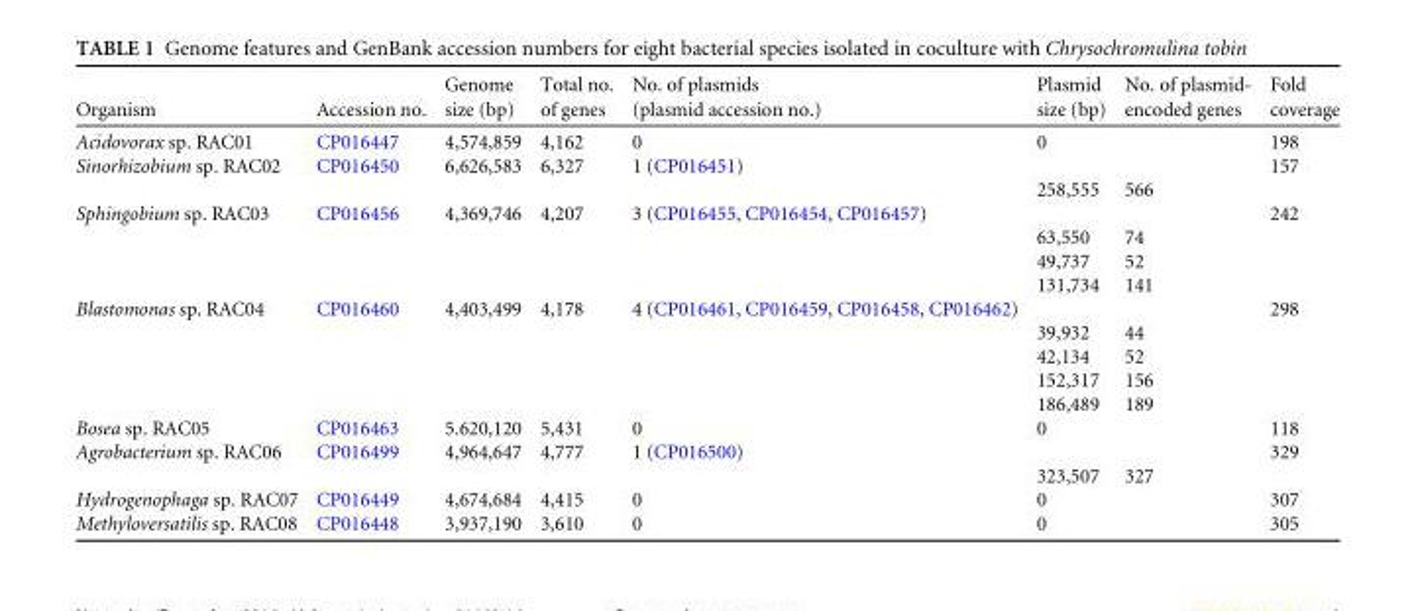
<table><thead><tr><td>Organism</td><td>Accession no.</td><td>Genome size (bp)</td><td>Total no. of genes</td><td>No. of plasmids (plasmid accession no.)</td><td>Plasmid size (bp)</td><td>No. of plasmid- encoded genes</td><td>Fold coverage</td></tr></thead><tbody><tr><td>Acidovorax sp. RAC01</td><td>CP016447</td><td>4,574,859</td><td>4,162</td><td>0</td><td>0</td><td></td><td>198</td></tr><tr><td rowspan="2">Sinorhizobium sp. RAC02</td><td>CP016450</td><td>6,626,583</td><td>6,327</td><td>1 (CP016451)</td><td></td><td></td><td>157</td></tr><tr><td></td><td></td><td></td><td></td><td>258,555</td><td>566</td><td></td></tr><tr><td rowspan="4">Sphingobium sp. RAC03</td><td>CP016456</td><td>4,369,746</td><td>4,207</td><td>3 (CP016455, CP016454, CP016457)</td><td></td><td></td><td>242</td></tr><tr><td></td><td></td><td></td><td></td><td>63,550</td><td>74</td><td></td></tr><tr><td></td><td></td><td></td><td></td><td>49,737</td><td>52</td><td></td></tr><tr><td></td><td></td><td></td><td></td><td>131,734</td><td>141</td><td></td></tr><tr><td rowspan="5">Blastomonas sp. RAC04</td><td>CP016460</td><td>4,403,499</td><td>4,178</td><td>4 (CP016461, CP016459, CP016458, CP016462)</td><td></td><td></td><td>298</td></tr><tr><td></td><td></td><td></td><td></td><td>39,932</td><td>44</td><td></td></tr><tr><td></td><td></td><td></td><td></td><td>42,134</td><td>52</td><td></td></tr><tr><td></td><td></td><td></td><td></td><td>152,317</td><td>156</td><td></td></tr><tr><td></td><td></td><td></td><td></td><td>186,489</td><td>189</td><td></td></tr><tr><td>Bosea sp. RAC05</td><td>CP016463</td><td>5.620,120</td><td>5,431</td><td>0</td><td>0</td><td></td><td>118</td></tr><tr><td rowspan="2">Agrobacterium sp. RAC06</td><td>CP016499</td><td>4,964,647</td><td>4,777</td><td>1 (CP016500)</td><td></td><td></td><td>329</td></tr><tr><td></td><td></td><td></td><td></td><td>323,507</td><td>327</td><td></td></tr><tr><td>Hydrogenophaga sp. RAC07</td><td>CP016449</td><td>4,674,684</td><td>4,415</td><td>0</td><td>0</td><td></td><td>307</td></tr><tr><td>Methyloversatilis sp. RAC08</td><td>CP016448</td><td>3,937,190</td><td>3,610</td><td>0</td><td>0</td><td></td><td>305</td></tr></tbody></table>